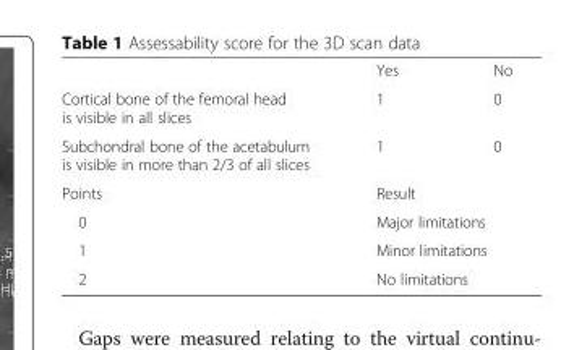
<table><thead><tr><td></td><td>Yes</td><td>No</td></tr></thead><tbody><tr><td>Cortical bone of the femoral head is visible in all slices</td><td>1</td><td>0</td></tr><tr><td>Subchondral bone of the acetabulum is visible in more than 2/3 of all slices</td><td>1</td><td>0</td></tr><tr><td>Points</td><td colspan="2">Result</td></tr><tr><td>0</td><td colspan="2">Major limitations</td></tr><tr><td>1</td><td colspan="2">Minor limitations</td></tr><tr><td>2</td><td colspan="2">No limitations</td></tr></tbody></table>